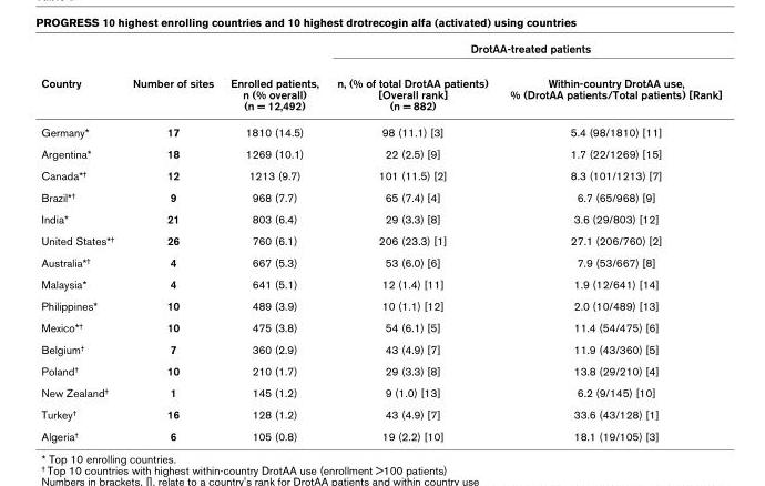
<table><thead><tr><td rowspan="2">Country</td><td rowspan="2">Number of sites</td><td rowspan="2">Enrolled patients, n (% overall) (n = 12,492)</td><td colspan="2">DrotAA-treated patients</td></tr><tr><td>n, (% of total DrotAA patients) [Overall rank] (n = 882)</td><td>Within-country DrotAA use, % (DrotAA patients/Total patients) [Rank]</td></tr></thead><tbody><tr><td>Germany*</td><td>17</td><td>1810 (14.5)</td><td>98 (11.1) [3]</td><td>5.4 (98/1810) [11]</td></tr><tr><td>Argentina*</td><td>18</td><td>1269 (10.1)</td><td>22 (2.5) [9]</td><td>1.7 (22/1269) [15]</td></tr><tr><td>Canada*<sup>†</sup></td><td>12</td><td>1213 (9.7)</td><td>101 (11.5) [2]</td><td>8.3 (101/1213) [7]</td></tr><tr><td>Brazil*<sup>†</sup></td><td>9</td><td>968 (7.7)</td><td>65 (7.4) [4]</td><td>6.7 (65/968) [9]</td></tr><tr><td>India*</td><td>21</td><td>803 (6.4)</td><td>29 (3.3) [8]</td><td>3.6 (29/803) [12]</td></tr><tr><td>United States*<sup>†</sup></td><td>26</td><td>760 (6.1)</td><td>206 (23.3) [1]</td><td>27.1 (206/760) [2]</td></tr><tr><td>Australia*<sup>†</sup></td><td>4</td><td>667 (5.3)</td><td>53 (6.0) [6]</td><td>7.9 (53/667) [8]</td></tr><tr><td>Malaysia*</td><td>4</td><td>641 (5.1)</td><td>12 (1.4) [11]</td><td>1.9 (12/641) [14]</td></tr><tr><td>Philippines*</td><td>10</td><td>489 (3.9)</td><td>10 (1.1) [12]</td><td>2.0 (10/489) [13]</td></tr><tr><td>Mexico*<sup>†</sup></td><td>10</td><td>475 (3.8)</td><td>54 (6.1) [5]</td><td>11.4 (54/475) [6]</td></tr><tr><td>Belgium<sup>†</sup></td><td>7</td><td>360 (2.9)</td><td>43 (4.9) [7]</td><td>11.9 (43/360) [5]</td></tr><tr><td>Poland<sup>†</sup></td><td>10</td><td>210 (1.7)</td><td>29 (3.3) [8]</td><td>13.8 (29/210) [4]</td></tr><tr><td>New Zealand<sup>†</sup></td><td>1</td><td>145 (1.2)</td><td>9 (1.0) [13]</td><td>6.2 (9/145) [10]</td></tr><tr><td>Turkey<sup>†</sup></td><td>16</td><td>128 (1.2)</td><td>43 (4.9) [7]</td><td>33.6 (43/128) [1]</td></tr><tr><td>Algeria<sup>†</sup></td><td>6</td><td>105 (0.8)</td><td>19 (2.2) [10]</td><td>18.1 (19/105) [3]</td></tr></tbody></table>